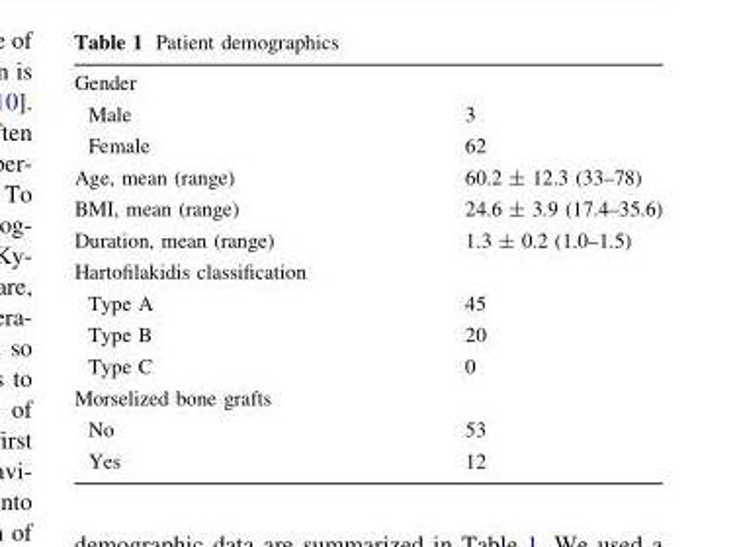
<table><tbody><tr><td colspan="2">Gender</td></tr><tr><td>Male</td><td>3</td></tr><tr><td>Female</td><td>62</td></tr><tr><td>Age, mean (range)</td><td>60.2 ± 12.3 (33–78)</td></tr><tr><td>BMI, mean (range)</td><td>24.6 ± 3.9 (17.4–35.6)</td></tr><tr><td>Duration, mean (range)</td><td>1.3 ± 0.2 (1.0–1.5)</td></tr><tr><td colspan="2">Hartofilakidis classification</td></tr><tr><td>Type A</td><td>45</td></tr><tr><td>Type B</td><td>20</td></tr><tr><td>Type C</td><td>0</td></tr><tr><td colspan="2">Morselized bone grafts</td></tr><tr><td>No</td><td>53</td></tr><tr><td>Yes</td><td>12</td></tr></tbody></table>